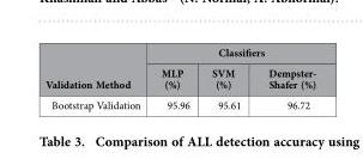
<table><thead><tr><td rowspan="2">Validation Method</td><td colspan="3">Classifiers</td></tr><tr><td>MLP (%)</td><td>SVM (%)</td><td>Dempster- Shafer (%)</td></tr></thead><tbody><tr><td>Bootstrap Validation</td><td>95.96</td><td>95.61</td><td>96.72</td></tr></tbody></table>